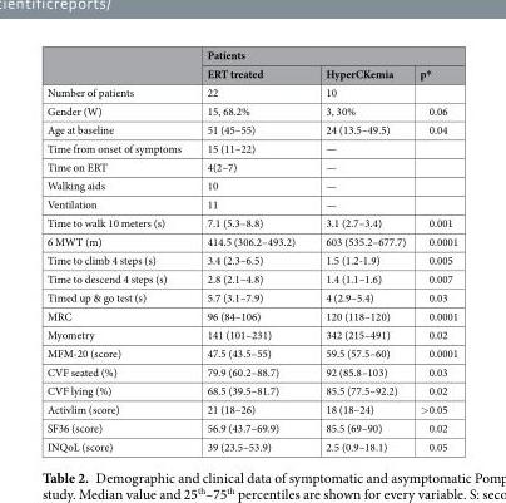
<table><thead><tr><td rowspan="2"></td><td colspan="3">Patients</td></tr><tr><td>ERT treated</td><td>HyperCKemia</td><td>p*</td></tr></thead><tbody><tr><td>Number of patients</td><td>22</td><td>10</td><td></td></tr><tr><td>Gender (W)</td><td>15, 68.2%</td><td>3, 30%</td><td>0.06</td></tr><tr><td>Age at baseline</td><td>51 (45–55)</td><td>24 (13.5–49.5)</td><td>0.04</td></tr><tr><td>Time from onset of symptoms</td><td>15 (11–22)</td><td>—</td><td></td></tr><tr><td>Time on ERT</td><td>4(2–7)</td><td>—</td><td></td></tr><tr><td>Walking aids</td><td>10</td><td>—</td><td></td></tr><tr><td>Ventilation</td><td>11</td><td>—</td><td></td></tr><tr><td>Time to walk 10 meters (s)</td><td>7.1 (5.3–8.8)</td><td>3.1 (2.7–3.4)</td><td>0.001</td></tr><tr><td>6 MWT (m)</td><td>414.5 (306.2–493.2)</td><td>603 (535.2–677.7)</td><td>0.0001</td></tr><tr><td>Time to climb 4 steps (s)</td><td>3.4 (2.3–6.5)</td><td>1.5 (1.2-1.9)</td><td>0.005</td></tr><tr><td>Time to descend 4 steps (s)</td><td>2.8 (2.1–4.8)</td><td>1.4 (1.1–1.6)</td><td>0.007</td></tr><tr><td>Timed up &amp; go test (s)</td><td>5.7 (3.1–7.9)</td><td>4 (2.9–5.4)</td><td>0.03</td></tr><tr><td>MRC</td><td>96 (84–106)</td><td>120 (118–120)</td><td>0.0001</td></tr><tr><td>Myometry</td><td>141 (101–231)</td><td>342 (215–491)</td><td>0.02</td></tr><tr><td>MFM-20 (score)</td><td>47.5 (43.5–55)</td><td>59.5 (57.5–60)</td><td>0.0001</td></tr><tr><td>CVF seated (%)</td><td>79.9 (60.2–88.7)</td><td>92 (85.8–103)</td><td>0.03</td></tr><tr><td>CVF lying (%)</td><td>68.5 (39.5–81.7)</td><td>85.5 (77.5–92.2)</td><td>0.02</td></tr><tr><td>Activlim (score)</td><td>21 (18–26)</td><td>18 (18–24)</td><td>&gt;0.05</td></tr><tr><td>SF36 (score)</td><td>56.9 (43.7–69.9)</td><td>85.5 (69–90)</td><td>0.02</td></tr><tr><td>INQoL (score)</td><td>39 (23.5–53.9)</td><td>2.5 (0.9–18.1)</td><td>0.05</td></tr></tbody></table>